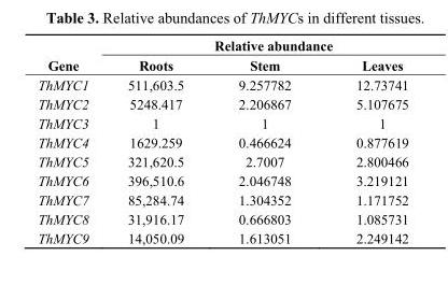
<table><thead><tr><td rowspan="2">Gene</td><td colspan="3">Relative abundance</td></tr><tr><td>Roots</td><td>Stem</td><td>Leaves</td></tr></thead><tbody><tr><td>ThMYC1</td><td>511,603.5</td><td>9.257782</td><td>12.73741</td></tr><tr><td>ThMYC2</td><td>5248.417</td><td>2.206867</td><td>5.107675</td></tr><tr><td>ThMYC3</td><td>1</td><td>1</td><td>1</td></tr><tr><td>ThMYC4</td><td>1629.259</td><td>0.466624</td><td>0.877619</td></tr><tr><td>ThMYC5</td><td>321,620.5</td><td>2.7007</td><td>2.800466</td></tr><tr><td>ThMYC6</td><td>396,510.6</td><td>2.046748</td><td>3.219121</td></tr><tr><td>ThMYC7</td><td>85,284.74</td><td>1.304352</td><td>1.171752</td></tr><tr><td>ThMYC8</td><td>31,916.17</td><td>0.666803</td><td>1.085731</td></tr><tr><td>ThMYC9</td><td>14,050.09</td><td>1.613051</td><td>2.249142</td></tr></tbody></table>